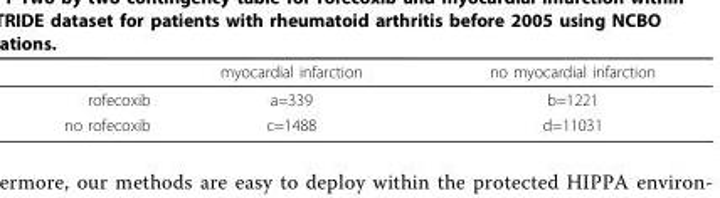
<table><thead><tr><td></td><td>myocardial infarction</td><td>no myocardial infarction</td></tr></thead><tbody><tr><td>rofecoxib</td><td>a=339</td><td>b=1221</td></tr><tr><td>no rofecoxib</td><td>c=1488</td><td>d=11031</td></tr></tbody></table>